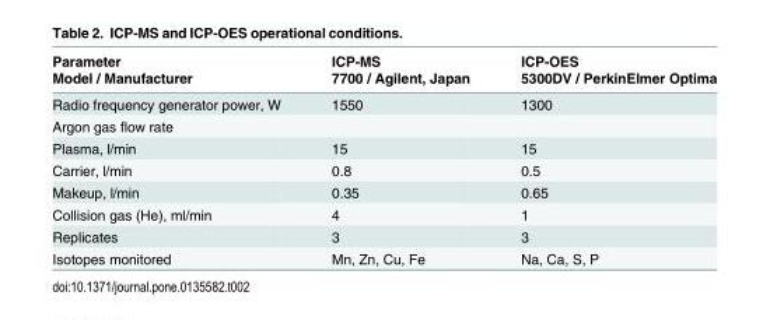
<table><thead><tr><td rowspan="2">Parameter Model / Manufacturer</td><td rowspan="2">ICP-MS 7700 / Agilent, Japan</td><td rowspan="2">ICP-OES 5300DV / PerkinElmer Optima</td></tr><tr></tr></thead><tbody><tr><td>Radio frequency generator power, W</td><td>1550</td><td>1300</td></tr><tr><td colspan="3">Argon gas flow rate</td></tr><tr><td>Plasma, l/min</td><td>15</td><td>15</td></tr><tr><td>Carrier, l/min</td><td>0.8</td><td>0.5</td></tr><tr><td>Makeup, l/min</td><td>0.35</td><td>0.65</td></tr><tr><td>Collision gas (He), ml/min</td><td>4</td><td>1</td></tr><tr><td>Replicates</td><td>3</td><td>3</td></tr><tr><td>Isotopes monitored</td><td>Mn, Zn, Cu, Fe</td><td>Na, Ca, S, P</td></tr></tbody></table>